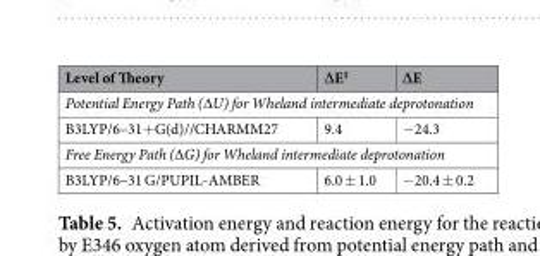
<table><thead><tr><td>Level of Theory</td><td>∆E<sup>‡</sup></td><td>∆E</td></tr></thead><tbody><tr><td colspan="3">Potential Energy Path (∆U) for Wheland intermediate deprotonation</td></tr><tr><td>B3LYP/6–31+G(d)//CHARMM27</td><td>9.4</td><td>−24.3</td></tr><tr><td colspan="3">Free Energy Path (∆G) for Wheland intermediate deprotonation</td></tr><tr><td>B3LYP/6–31 G/PUPIL-AMBER</td><td>6.0 ± 1.0</td><td>−20.4 ± 0.2</td></tr></tbody></table>